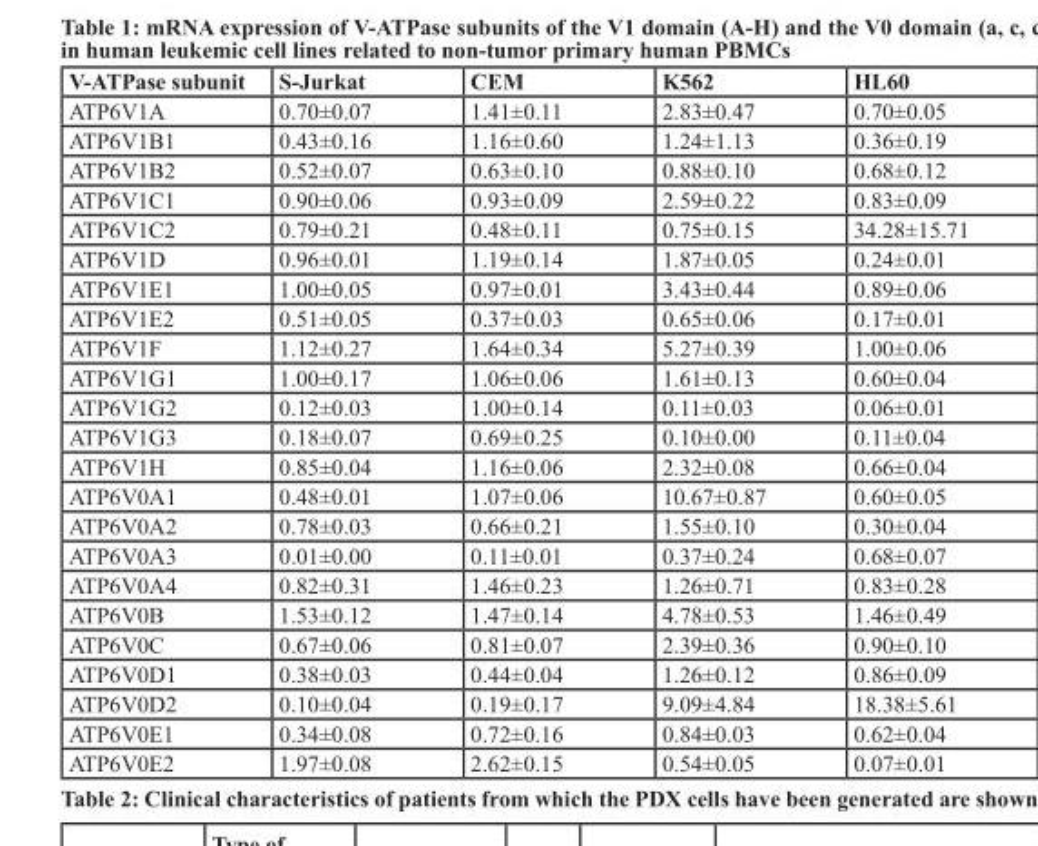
<table><thead><tr><td>V-ATPase subunit</td><td>S-Jurkat</td><td>CEM</td><td>K562</td><td>HL60</td></tr></thead><tbody><tr><td>ATP6V1A</td><td>0.70±0.07</td><td>1.41±0.11</td><td>2.83±0.47</td><td>0.70±0.05</td></tr><tr><td>ATP6V1B1</td><td>0.43±0.16</td><td>1.16±0.60</td><td>1.24±1.13</td><td>0.36±0.19</td></tr><tr><td>ATP6V1B2</td><td>0.52±0.07</td><td>0.63±0.10</td><td>0.88±0.10</td><td>0.68±0.12</td></tr><tr><td>ATP6V1C1</td><td>0.90±0.06</td><td>0.93±0.09</td><td>2.59±0.22</td><td>0.83±0.09</td></tr><tr><td>ATP6V1C2</td><td>0.79±0.21</td><td>0.48±0.11</td><td>0.75±0.15</td><td>34.28±15.71</td></tr><tr><td>ATP6V1D</td><td>0.96±0.01</td><td>1.19±0.14</td><td>1.87±0.05</td><td>0.24±0.01</td></tr><tr><td>ATP6V1E1</td><td>1.00±0.05</td><td>0.97±0.01</td><td>3.43±0.44</td><td>0.89±0.06</td></tr><tr><td>ATP6V1E2</td><td>0.51±0.05</td><td>0.37±0.03</td><td>0.65±0.06</td><td>0.17±0.01</td></tr><tr><td>ATP6V1F</td><td>1.12±0.27</td><td>1.64±0.34</td><td>5.27±0.39</td><td>1.00±0.06</td></tr><tr><td>ATP6V1G1</td><td>1.00±0.17</td><td>1.06±0.06</td><td>1.61±0.13</td><td>0.60±0.04</td></tr><tr><td>ATP6V1G2</td><td>0.12±0.03</td><td>1.00±0.14</td><td>0.11±0.03</td><td>0.06±0.01</td></tr><tr><td>ATP6V1G3</td><td>0.18±0.07</td><td>0.69±0.25</td><td>0.10±0.00</td><td>0.11±0.04</td></tr><tr><td>ATP6V1H</td><td>0.85±0.04</td><td>1.16±0.06</td><td>2.32±0.08</td><td>0.66±0.04</td></tr><tr><td>ATP6V0A1</td><td>0.48±0.01</td><td>1.07±0.06</td><td>10.67±0.87</td><td>0.60±0.05</td></tr><tr><td>ATP6V0A2</td><td>0.78±0.03</td><td>0.66±0.21</td><td>1.55±0.10</td><td>0.30±0.04</td></tr><tr><td>ATP6V0A3</td><td>0.01±0.00</td><td>0.11±0.01</td><td>0.37±0.24</td><td>0.68±0.07</td></tr><tr><td>ATP6V0A4</td><td>0.82±0.31</td><td>1.46±0.23</td><td>1.26±0.71</td><td>0.83±0.28</td></tr><tr><td>ATP6V0B</td><td>1.53±0.12</td><td>1.47±0.14</td><td>4.78±0.53</td><td>1.46±0.49</td></tr><tr><td>ATP6V0C</td><td>0.67±0.06</td><td>0.81±0.07</td><td>2.39±0.36</td><td>0.90±0.10</td></tr><tr><td>ATP6V0D1</td><td>0.38±0.03</td><td>0.44±0.04</td><td>1.26±0.12</td><td>0.86±0.09</td></tr><tr><td>ATP6V0D2</td><td>0.10±0.04</td><td>0.19±0.17</td><td>9.09±4.84</td><td>18.38±5.61</td></tr><tr><td>ATP6V0E1</td><td>0.34±0.08</td><td>0.72±0.16</td><td>0.84±0.03</td><td>0.62±0.04</td></tr><tr><td>ATP6V0E2</td><td>1.97±0.08</td><td>2.62±0.15</td><td>0.54±0.05</td><td>0.07±0.01</td></tr></tbody></table>